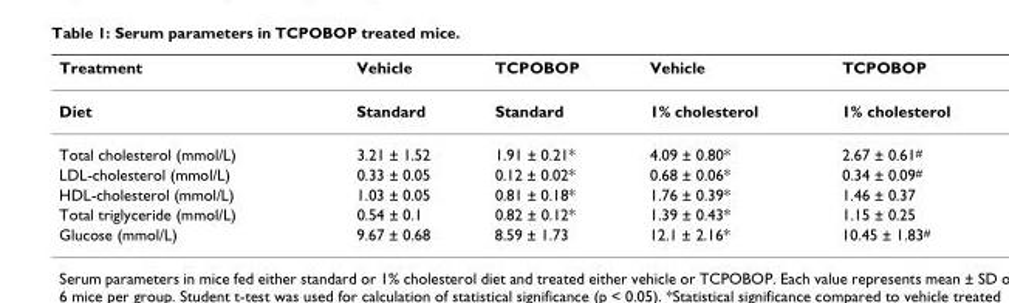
<table><thead><tr><td>Treatment</td><td>Vehicle</td><td>TCPOBOP</td><td>Vehicle</td><td>TCPOBOP</td></tr></thead><tbody><tr><td>Diet</td><td>Standard</td><td>Standard</td><td>1% cholesterol</td><td>1% cholesterol</td></tr><tr><td>Total cholesterol (mmol/L)</td><td>3.21 ± 1.52</td><td>1.91 ± 0.21*</td><td>4.09 ± 0.80*</td><td>2.67 ± 0.61<sup>#</sup></td></tr><tr><td>LDL-cholesterol (mmol/L)</td><td>0.33 ± 0.05</td><td>0.12 ± 0.02*</td><td>0.68 ± 0.06*</td><td>0.34 ± 0.09<sup>#</sup></td></tr><tr><td>HDL-cholesterol (mmol/L)</td><td>1.03 ± 0.05</td><td>0.81 ± 0.18*</td><td>1.76 ± 0.39*</td><td>1.46 ± 0.37</td></tr><tr><td>Total triglyceride (mmol/L)</td><td>0.54 ± 0.1</td><td>0.82 ± 0.12*</td><td>1.39 ± 0.43*</td><td>1.15 ± 0.25</td></tr><tr><td>Glucose (mmol/L)</td><td>9.67 ± 0.68</td><td>8.59 ± 1.73</td><td>12.1 ± 2.16*</td><td>10.45 ± 1.83<sup>#</sup></td></tr></tbody></table>